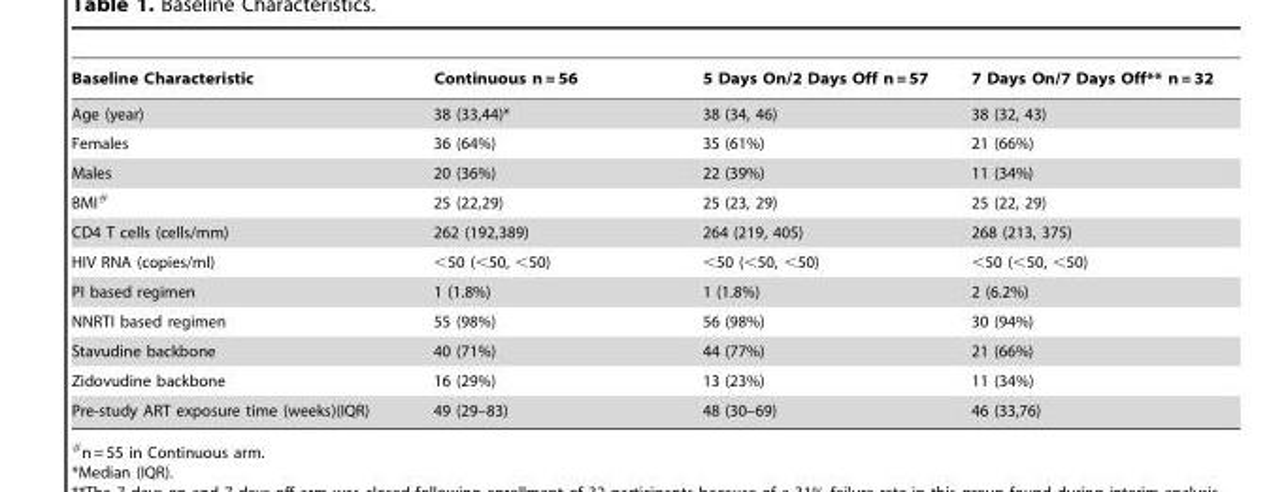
<table><thead><tr><td>Baseline Characteristic</td><td>Continuous n = 56</td><td>5 Days On/2 Days Off n = 57</td><td>7 Days On/7 Days Off** n = 32</td></tr></thead><tbody><tr><td>Age (year)</td><td>38 (33,44)*</td><td>38 (34, 46)</td><td>38 (32, 43)</td></tr><tr><td>Females</td><td>36 (64%)</td><td>35 (61%)</td><td>21 (66%)</td></tr><tr><td>Males</td><td>20 (36%)</td><td>22 (39%)</td><td>11 (34%)</td></tr><tr><td>BMI#</td><td>25 (22,29)</td><td>25 (23, 29)</td><td>25 (22, 29)</td></tr><tr><td>CD4 T cells (cells/mm)</td><td>262 (192,389)</td><td>264 (219, 405)</td><td>268 (213, 375)</td></tr><tr><td>HIV RNA (copies/ml)</td><td>&lt;50 (&lt;50, &lt;50)</td><td>&lt;50 (&lt;50, &lt;50)</td><td>&lt;50 (&lt;50, &lt;50)</td></tr><tr><td>PI based regimen</td><td>1 (1.8%)</td><td>1 (1.8%)</td><td>2 (6.2%)</td></tr><tr><td>NNRTI based regimen</td><td>55 (98%)</td><td>56 (98%)</td><td>30 (94%)</td></tr><tr><td>Stavudine backbone</td><td>40 (71%)</td><td>44 (77%)</td><td>21 (66%)</td></tr><tr><td>Zidovudine backbone</td><td>16 (29%)</td><td>13 (23%)</td><td>11 (34%)</td></tr><tr><td>Pre-study ART exposure time (weeks)(IQR)</td><td>49 (29–83)</td><td>48 (30–69)</td><td>46 (33,76)</td></tr></tbody></table>